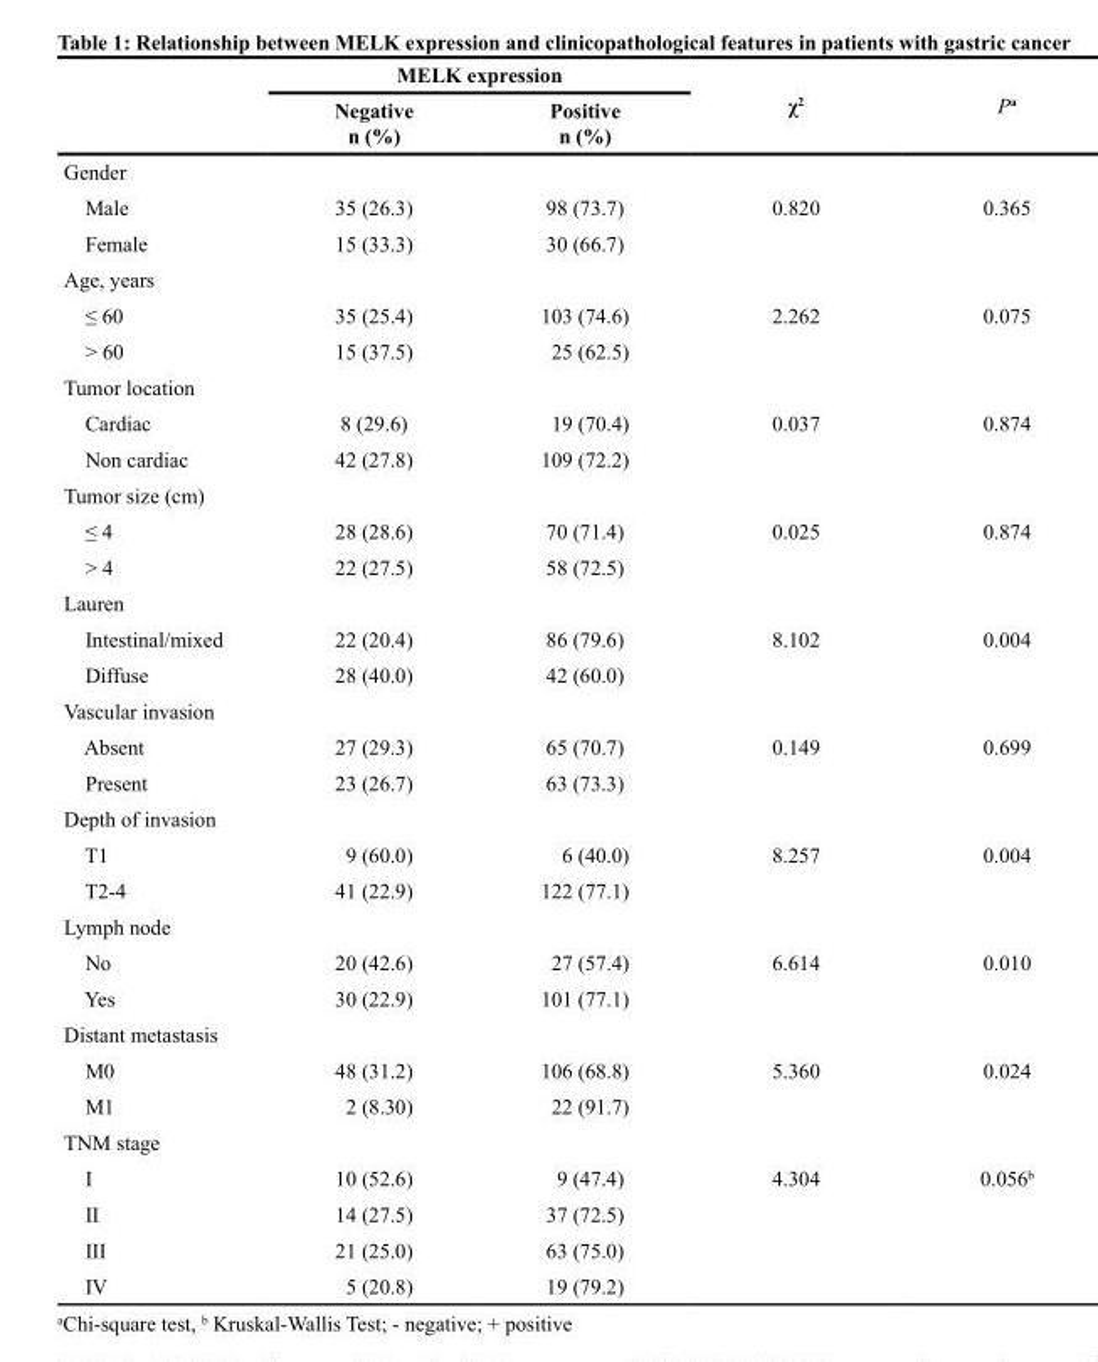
<table><thead><tr><td rowspan="2"></td><td colspan="2">MELK expression</td><td rowspan="2">χ<sup>2</sup></td><td rowspan="2">P<sup>a</sup></td></tr><tr><td>Negative n (%)</td><td>Positive n (%)</td></tr></thead><tbody><tr><td colspan="5">Gender</td></tr><tr><td>Male</td><td>35 (26.3)</td><td>98 (73.7)</td><td>0.820</td><td>0.365</td></tr><tr><td>Female</td><td>15 (33.3)</td><td>30 (66.7)</td><td></td><td></td></tr><tr><td colspan="5">Age, years</td></tr><tr><td>≤ 60</td><td>35 (25.4)</td><td>103 (74.6)</td><td>2.262</td><td>0.075</td></tr><tr><td>&gt; 60</td><td>15 (37.5)</td><td>25 (62.5)</td><td></td><td></td></tr><tr><td colspan="5">Tumor location</td></tr><tr><td>Cardiac</td><td>8 (29.6)</td><td>19 (70.4)</td><td>0.037</td><td>0.874</td></tr><tr><td>Non cardiac</td><td>42 (27.8)</td><td>109 (72.2)</td><td></td><td></td></tr><tr><td colspan="5">Tumor size (cm)</td></tr><tr><td>≤ 4</td><td>28 (28.6)</td><td>70 (71.4)</td><td>0.025</td><td>0.874</td></tr><tr><td>&gt; 4</td><td>22 (27.5)</td><td>58 (72.5)</td><td></td><td></td></tr><tr><td colspan="5">Lauren</td></tr><tr><td>Intestinal/mixed</td><td>22 (20.4)</td><td>86 (79.6)</td><td>8.102</td><td>0.004</td></tr><tr><td>Diffuse</td><td>28 (40.0)</td><td>42 (60.0)</td><td></td><td></td></tr><tr><td colspan="5">Vascular invasion</td></tr><tr><td>Absent</td><td>27 (29.3)</td><td>65 (70.7)</td><td>0.149</td><td>0.699</td></tr><tr><td>Present</td><td>23 (26.7)</td><td>63 (73.3)</td><td></td><td></td></tr><tr><td colspan="5">Depth of invasion</td></tr><tr><td>T1</td><td>9 (60.0)</td><td>6 (40.0)</td><td>8.257</td><td>0.004</td></tr><tr><td>T2-4</td><td>41 (22.9)</td><td>122 (77.1)</td><td></td><td></td></tr><tr><td colspan="5">Lymph node</td></tr><tr><td>No</td><td>20 (42.6)</td><td>27 (57.4)</td><td>6.614</td><td>0.010</td></tr><tr><td>Yes</td><td>30 (22.9)</td><td>101 (77.1)</td><td></td><td></td></tr><tr><td colspan="5">Distant metastasis</td></tr><tr><td>M0</td><td>48 (31.2)</td><td>106 (68.8)</td><td>5.360</td><td>0.024</td></tr><tr><td>M1</td><td>2 (8.30)</td><td>22 (91.7)</td><td></td><td></td></tr><tr><td colspan="5">TNM stage</td></tr><tr><td>I</td><td>10 (52.6)</td><td>9 (47.4)</td><td>4.304</td><td>0.056<sup>b</sup></td></tr><tr><td>II</td><td>14 (27.5)</td><td>37 (72.5)</td><td></td><td></td></tr><tr><td>III</td><td>21 (25.0)</td><td>63 (75.0)</td><td></td><td></td></tr><tr><td>IV</td><td>5 (20.8)</td><td>19 (79.2)</td><td></td><td></td></tr></tbody></table>